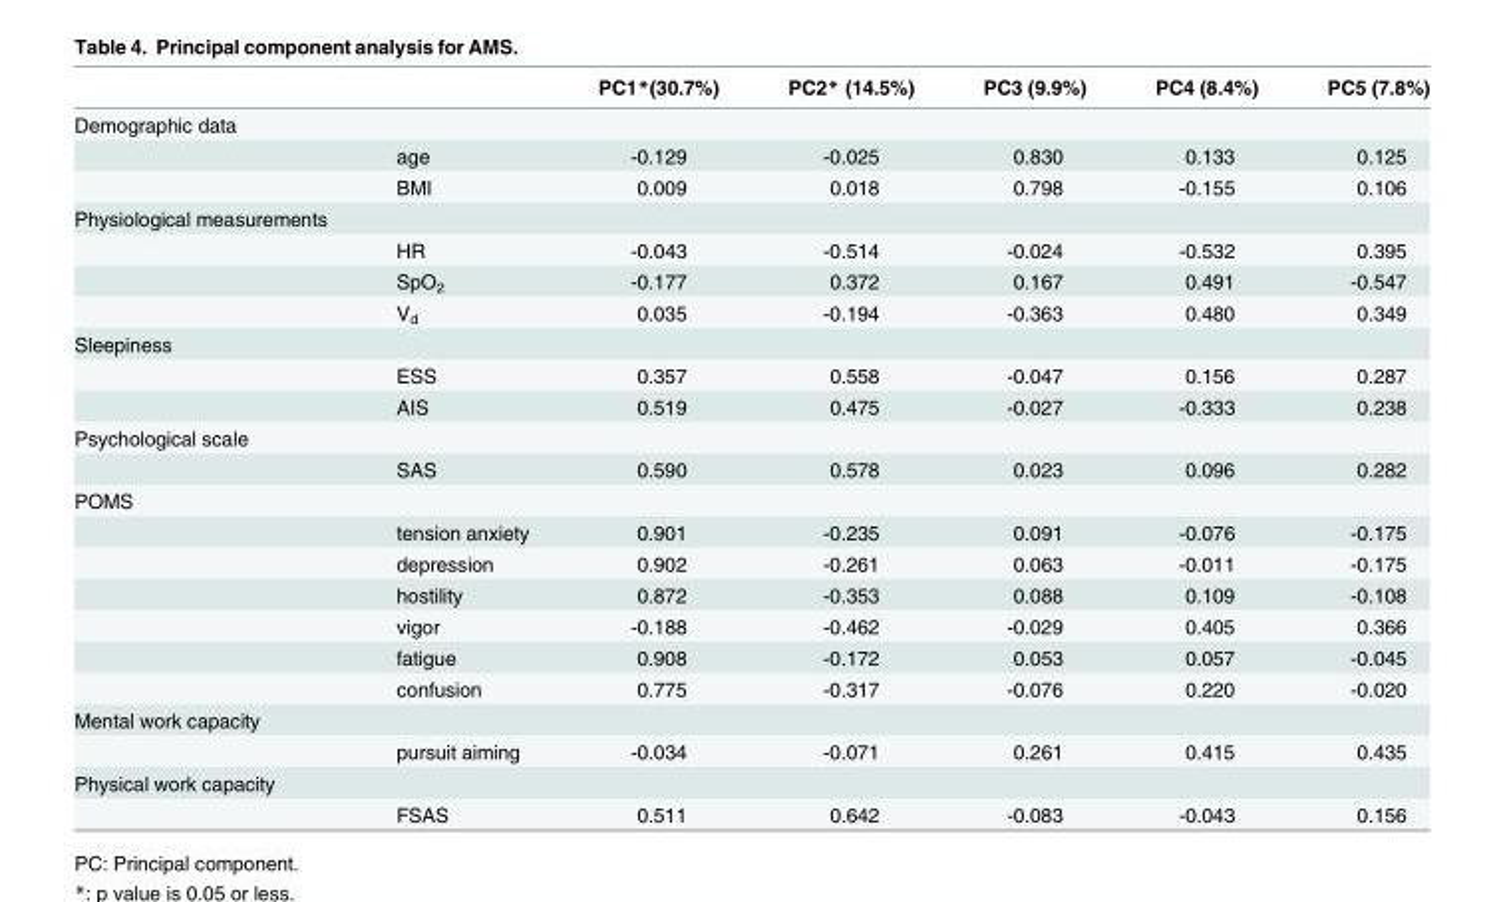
<table><thead><tr><td></td><td></td><td>PC1*(30.7%)</td><td>PC2* (14.5%)</td><td>PC3 (9.9%)</td><td>PC4 (8.4%)</td><td>PC5 (7.8%)</td></tr></thead><tbody><tr><td colspan="7">Demographic data</td></tr><tr><td></td><td>age</td><td>-0.129</td><td>-0.025</td><td>0.830</td><td>0.133</td><td>0.125</td></tr><tr><td></td><td>BMI</td><td>0.009</td><td>0.018</td><td>0.798</td><td>-0.155</td><td>0.106</td></tr><tr><td colspan="7">Physiological measurements</td></tr><tr><td></td><td>HR</td><td>-0.043</td><td>-0.514</td><td>-0.024</td><td>-0.532</td><td>0.395</td></tr><tr><td></td><td>SpO<sub>2</sub></td><td>-0.177</td><td>0.372</td><td>0.167</td><td>0.491</td><td>-0.547</td></tr><tr><td></td><td>V<sub>d</sub></td><td>0.035</td><td>-0.194</td><td>-0.363</td><td>0.480</td><td>0.349</td></tr><tr><td colspan="7">Sleepiness</td></tr><tr><td></td><td>ESS</td><td>0.357</td><td>0.558</td><td>-0.047</td><td>0.156</td><td>0.287</td></tr><tr><td></td><td>AIS</td><td>0.519</td><td>0.475</td><td>-0.027</td><td>-0.333</td><td>0.238</td></tr><tr><td colspan="7">Psychological scale</td></tr><tr><td></td><td>SAS</td><td>0.590</td><td>0.578</td><td>0.023</td><td>0.096</td><td>0.282</td></tr><tr><td colspan="7">POMS</td></tr><tr><td></td><td>tension anxiety</td><td>0.901</td><td>-0.235</td><td>0.091</td><td>-0.076</td><td>-0.175</td></tr><tr><td></td><td>depression</td><td>0.902</td><td>-0.261</td><td>0.063</td><td>-0.011</td><td>-0.175</td></tr><tr><td></td><td>hostility</td><td>0.872</td><td>-0.353</td><td>0.088</td><td>0.109</td><td>-0.108</td></tr><tr><td></td><td>vigor</td><td>-0.188</td><td>-0.462</td><td>-0.029</td><td>0.405</td><td>0.366</td></tr><tr><td></td><td>fatigue</td><td>0.908</td><td>-0.172</td><td>0.053</td><td>0.057</td><td>-0.045</td></tr><tr><td></td><td>confusion</td><td>0.775</td><td>-0.317</td><td>-0.076</td><td>0.220</td><td>-0.020</td></tr><tr><td colspan="7">Mental work capacity</td></tr><tr><td></td><td>pursuit aiming</td><td>-0.034</td><td>-0.071</td><td>0.261</td><td>0.415</td><td>0.435</td></tr><tr><td colspan="7">Physical work capacity</td></tr><tr><td></td><td>FSAS</td><td>0.511</td><td>0.642</td><td>-0.083</td><td>-0.043</td><td>0.156</td></tr></tbody></table>